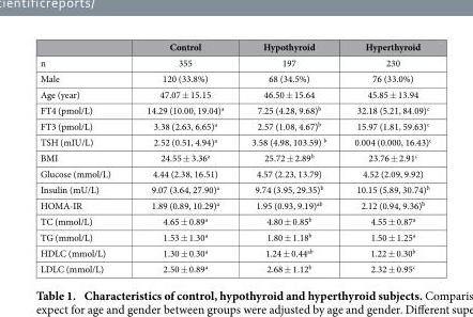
<table><thead><tr><td></td><td>Control</td><td>Hypothyroid</td><td>Hyperthyroid</td></tr></thead><tbody><tr><td>n</td><td>355</td><td>197</td><td>230</td></tr><tr><td>Male</td><td>120 (33.8%)</td><td>68 (34.5%)</td><td>76 (33.0%)</td></tr><tr><td>Age (year)</td><td>47.07 ± 15.15</td><td>46.50 ± 15.64</td><td>45.85 ± 13.94</td></tr><tr><td>FT4 (pmol/L)</td><td>14.29 (10.00, 19.04)<sup>a</sup></td><td>7.25 (4.28, 9.68)<sup>b</sup></td><td>32.18 (5.21, 84.09)<sup>c</sup></td></tr><tr><td>FT3 (pmol/L)</td><td>3.38 (2.63, 6.65)<sup>a</sup></td><td>2.57 (1.08, 4.67)<sup>b</sup></td><td>15.97 (1.81, 59.63)<sup>c</sup></td></tr><tr><td>TSH (mIU/L)</td><td>2.52 (0.51, 4.94)<sup>a</sup></td><td>3.58 (4.98, 103.59) <sup>b</sup></td><td>0.004 (0.000, 16.43)<sup>c</sup></td></tr><tr><td>BMI</td><td>24.55 ± 3.36<sup>a</sup></td><td>25.72 ± 2.89<sup>b</sup></td><td>23.76 ± 2.91<sup>c</sup></td></tr><tr><td>Glucose (mmol/L)</td><td>4.44 (2.38, 16.51)</td><td>4.57 (2.23, 13.79)</td><td>4.52 (2.09, 9.92)</td></tr><tr><td>Insulin (mU/L)</td><td>9.07 (3.64, 27.90)<sup>a</sup></td><td>9.74 (3.95, 29.35)<sup>b</sup></td><td>10.15 (5.89, 30.74)<sup>b</sup></td></tr><tr><td>HOMA-IR</td><td>1.89 (0.89, 10.29)<sup>a</sup></td><td>1.95 (0.93, 9.19)<sup>ab</sup></td><td>2.12 (0.94, 9.36)<sup>b</sup></td></tr><tr><td>TC (mmol/L)</td><td>4.65 ± 0.89<sup>a</sup></td><td>4.80 ± 0.85<sup>b</sup></td><td>4.55 ± 0.87<sup>a</sup></td></tr><tr><td>TG (mmol/L)</td><td>1.53 ± 1.30<sup>a</sup></td><td>1.80 ± 1.18<sup>b</sup></td><td>1.50 ± 1.25<sup>a</sup></td></tr><tr><td>HDLC (mmol/L)</td><td>1.30 ± 0.30<sup>a</sup></td><td>1.24 ± 0.44<sup>ab</sup></td><td>1.22 ± 0.30<sup>b</sup></td></tr><tr><td>LDLC (mmol/L)</td><td>2.50 ± 0.89<sup>a</sup></td><td>2.68 ± 1.12<sup>b</sup></td><td>2.32 ± 0.95<sup>c</sup></td></tr></tbody></table>